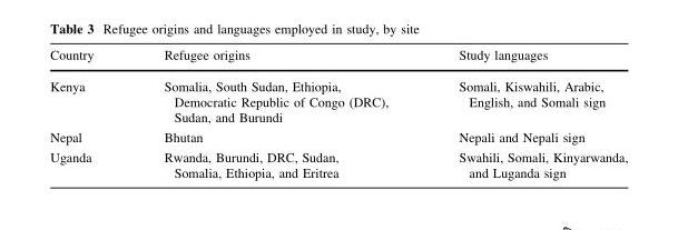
<table><thead><tr><td>Country</td><td>Refugee origins</td><td>Study languages</td></tr></thead><tbody><tr><td>Kenya</td><td>Somalia, South Sudan, Ethiopia, Democratic Republic of Congo (DRC), Sudan, and Burundi</td><td>Somali, Kiswahili, Arabic, English, and Somali sign</td></tr><tr><td>Nepal</td><td>Bhutan</td><td>Nepali and Nepali sign</td></tr><tr><td>Uganda</td><td>Rwanda, Burundi, DRC, Sudan, Somalia, Ethiopia, and Eritrea</td><td>Swahili, Somali, Kinyarwanda, and Luganda sign</td></tr></tbody></table>